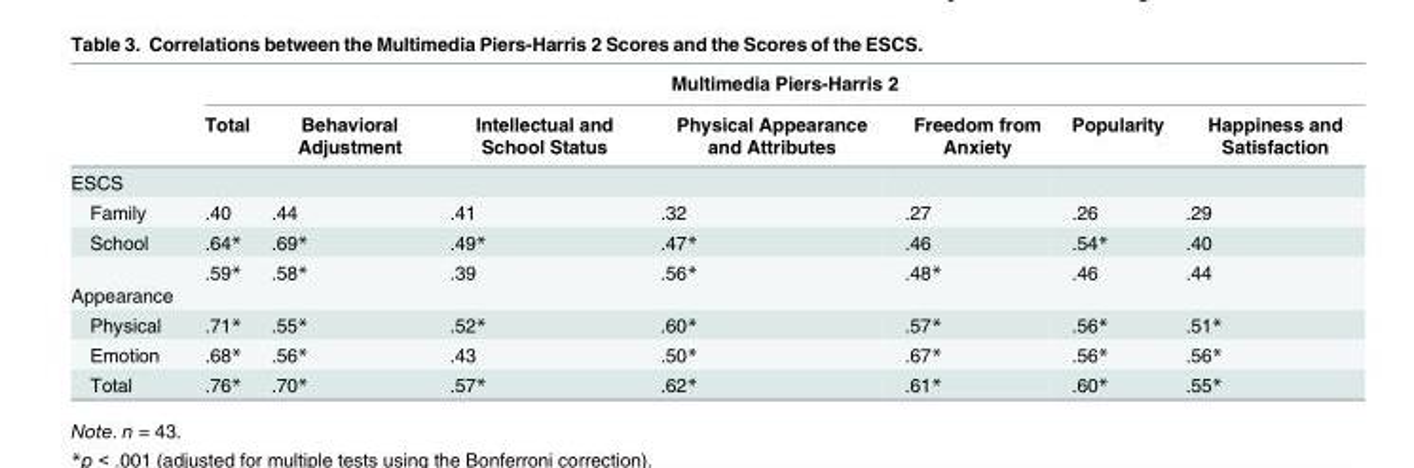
<table><thead><tr><td rowspan="2"></td><td colspan="7">Multimedia Piers-Harris 2</td></tr><tr><td>Total</td><td>Behavioral Adjustment</td><td>Intellectual and School Status</td><td>Physical Appearance and Attributes</td><td>Freedom from Anxiety</td><td>Popularity</td><td>Happiness and Satisfaction</td></tr></thead><tbody><tr><td colspan="8">ESCS</td></tr><tr><td>Family</td><td>.40</td><td>.44</td><td>.41</td><td>.32</td><td>.27</td><td>.26</td><td>.29</td></tr><tr><td>School</td><td>.64*</td><td>.69*</td><td>.49*</td><td>.47*</td><td>.46</td><td>.54*</td><td>.40</td></tr><tr><td>Appearance</td><td>.59*</td><td>.58*</td><td>.39</td><td>.56*</td><td>.48*</td><td>.46</td><td>.44</td></tr><tr><td>Physical</td><td>.71*</td><td>.55*</td><td>.52*</td><td>.60*</td><td>.57*</td><td>.56*</td><td>.51*</td></tr><tr><td>Emotion</td><td>.68*</td><td>.56*</td><td>.43</td><td>.50*</td><td>.67*</td><td>.56*</td><td>.56*</td></tr><tr><td>Total</td><td>.76*</td><td>.70*</td><td>.57*</td><td>.62*</td><td>.61*</td><td>.60*</td><td>.55*</td></tr></tbody></table>